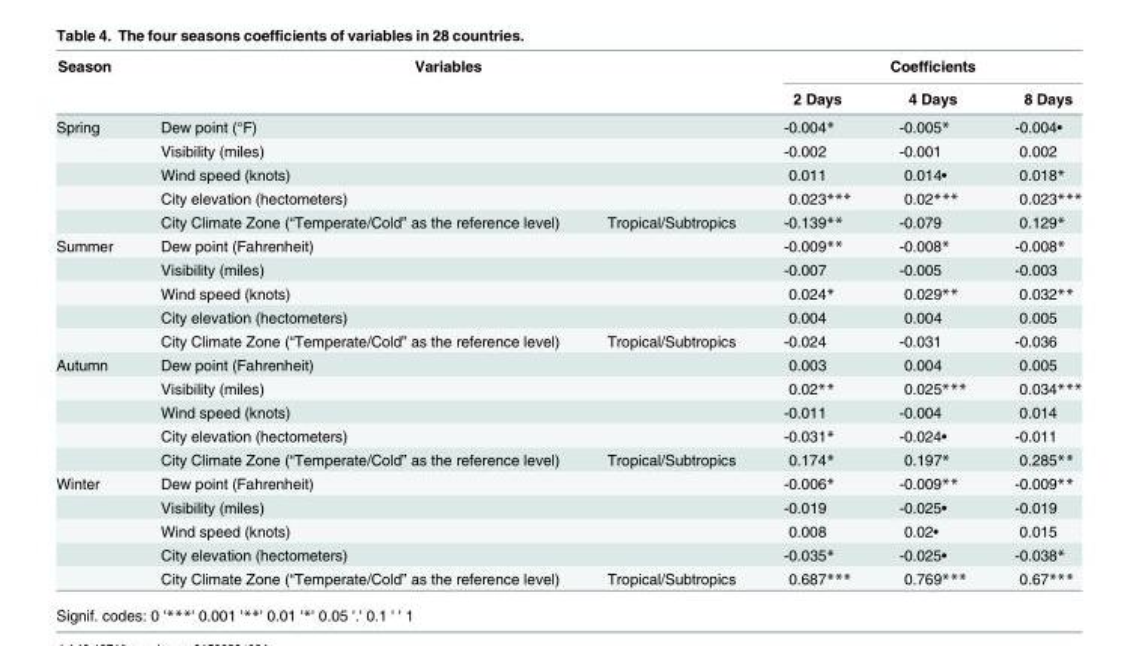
<table><thead><tr><td rowspan="2">Season</td><td colspan="2">Variables</td><td colspan="3">Coefficients</td></tr><tr><td></td><td></td><td>2 Days</td><td>4 Days</td><td>8 Days</td></tr></thead><tbody><tr><td rowspan="5">Spring</td><td>Dew point (°F)</td><td></td><td>-0.004*</td><td>-0.005*</td><td>-0.004•</td></tr><tr><td>Visibility (miles)</td><td></td><td>-0.002</td><td>-0.001</td><td>0.002</td></tr><tr><td>Wind speed (knots)</td><td></td><td>0.011</td><td>0.014•</td><td>0.018*</td></tr><tr><td>City elevation (hectometers)</td><td></td><td>0.023***</td><td>0.02***</td><td>0.023***</td></tr><tr><td>City Climate Zone (“Temperate/Cold” as the reference level)</td><td>Tropical/Subtropics</td><td>-0.139**</td><td>-0.079</td><td>0.129*</td></tr><tr><td rowspan="5">Summer</td><td>Dew point (Fahrenheit)</td><td></td><td>-0.009**</td><td>-0.008*</td><td>-0.008*</td></tr><tr><td>Visibility (miles)</td><td></td><td>-0.007</td><td>-0.005</td><td>-0.003</td></tr><tr><td>Wind speed (knots)</td><td></td><td>0.024*</td><td>0.029**</td><td>0.032**</td></tr><tr><td>City elevation (hectometers)</td><td></td><td>0.004</td><td>0.004</td><td>0.005</td></tr><tr><td>City Climate Zone (“Temperate/Cold” as the reference level)</td><td>Tropical/Subtropics</td><td>-0.024</td><td>-0.031</td><td>-0.036</td></tr><tr><td rowspan="5">Autumn</td><td>Dew point (Fahrenheit)</td><td></td><td>0.003</td><td>0.004</td><td>0.005</td></tr><tr><td>Visibility (miles)</td><td></td><td>0.02**</td><td>0.025***</td><td>0.034***</td></tr><tr><td>Wind speed (knots)</td><td></td><td>-0.011</td><td>-0.004</td><td>0.014</td></tr><tr><td>City elevation (hectometers)</td><td></td><td>-0.031*</td><td>-0.024•</td><td>-0.011</td></tr><tr><td>City Climate Zone (“Temperate/Cold” as the reference level)</td><td>Tropical/Subtropics</td><td>0.174*</td><td>0.197*</td><td>0.285**</td></tr><tr><td rowspan="5">Winter</td><td>Dew point (Fahrenheit)</td><td></td><td>-0.006*</td><td>-0.009**</td><td>-0.009**</td></tr><tr><td>Visibility (miles)</td><td></td><td>-0.019</td><td>-0.025•</td><td>-0.019</td></tr><tr><td>Wind speed (knots)</td><td></td><td>0.008</td><td>0.02•</td><td>0.015</td></tr><tr><td>City elevation (hectometers)</td><td></td><td>-0.035*</td><td>-0.025•</td><td>-0.038*</td></tr><tr><td>City Climate Zone (“Temperate/Cold” as the reference level)</td><td>Tropical/Subtropics</td><td>0.687***</td><td>0.769***</td><td>0.67***</td></tr></tbody></table>